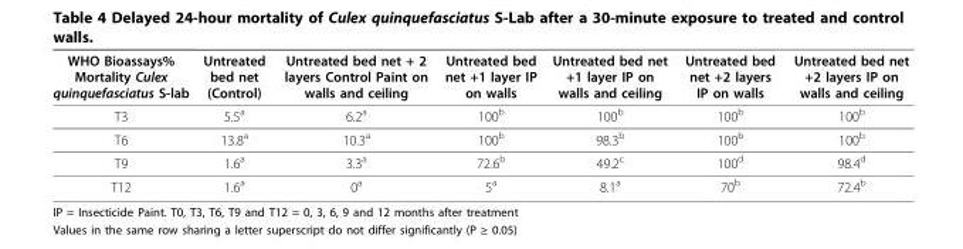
<table><thead><tr><td>WHO Bioassays% Mortality Culex quinquefasciatus S-lab</td><td>Untreated bed net (Control)</td><td>Untreated bed net + 2 layers Control Paint on walls and ceiling</td><td>Untreated bed net +1 layer IP on walls</td><td>Untreated bed net +1 layer IP on walls and ceiling</td><td>Untreated bed net +2 layers IP on walls</td><td>Untreated bed net +2 layers IP on walls and ceiling</td></tr></thead><tbody><tr><td>T3</td><td>5.5<sup>a</sup></td><td>6.2<sup>a</sup></td><td>100<sup>b</sup></td><td>100<sup>b</sup></td><td>100<sup>b</sup></td><td>100<sup>b</sup></td></tr><tr><td>T6</td><td>13.8<sup>a</sup></td><td>10.3<sup>a</sup></td><td>100<sup>b</sup></td><td>98.3<sup>b</sup></td><td>100<sup>b</sup></td><td>100<sup>b</sup></td></tr><tr><td>T9</td><td>1.6<sup>a</sup></td><td>3.3<sup>a</sup></td><td>72.6<sup>b</sup></td><td>49.2<sup>c</sup></td><td>100<sup>d</sup></td><td>98.4<sup>d</sup></td></tr><tr><td>T12</td><td>1.6<sup>a</sup></td><td>0<sup>a</sup></td><td>5<sup>a</sup></td><td>8.1<sup>a</sup></td><td>70<sup>b</sup></td><td>72.4<sup>b</sup></td></tr></tbody></table>